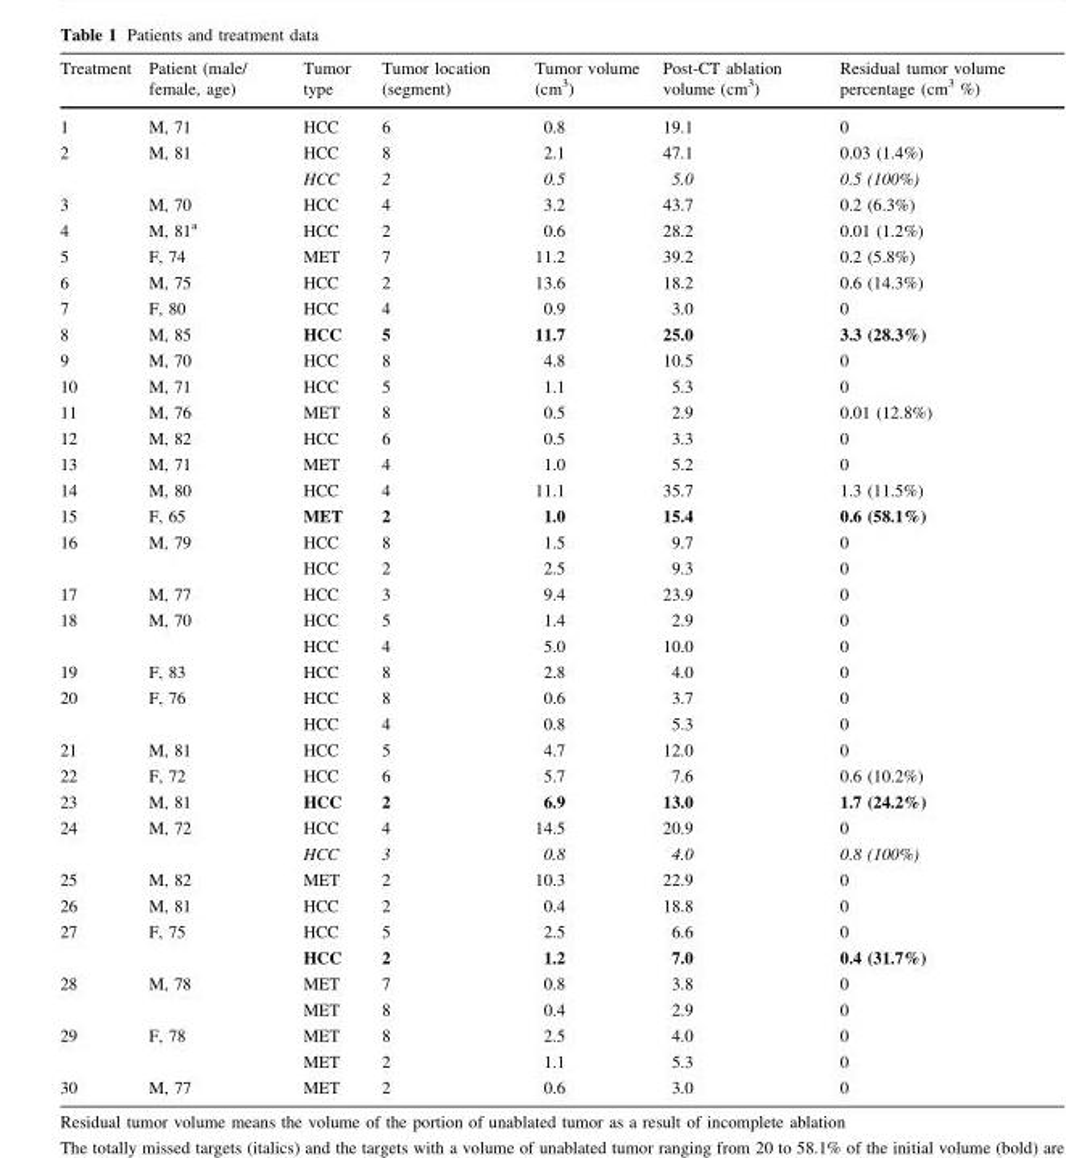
<table><thead><tr><td>Treatment</td><td>Patient (male/ female, age)</td><td>Tumor type</td><td>Tumor location (segment)</td><td>Tumor volume (cm<sup>3</sup>)</td><td>Post-CT ablation volume (cm<sup>3</sup>)</td><td>Residual tumor volume percentage (cm<sup>3</sup> %)</td></tr></thead><tbody><tr><td>1</td><td>M, 71</td><td>HCC</td><td>6</td><td>0.8</td><td>19.1</td><td>0</td></tr><tr><td rowspan="2">2</td><td rowspan="2">M, 81</td><td>HCC</td><td>8</td><td>2.1</td><td>47.1</td><td>0.03 (1.4%)</td></tr><tr><td>HCC</td><td>2</td><td>0.5</td><td>5.0</td><td>0.5 (100%)</td></tr><tr><td>3</td><td>M, 70</td><td>HCC</td><td>4</td><td>3.2</td><td>43.7</td><td>0.2 (6.3%)</td></tr><tr><td>4</td><td>M, 81<sup>a</sup></td><td>HCC</td><td>2</td><td>0.6</td><td>28.2</td><td>0.01 (1.2%)</td></tr><tr><td>5</td><td>F, 74</td><td>MET</td><td>7</td><td>11.2</td><td>39.2</td><td>0.2 (5.8%)</td></tr><tr><td>6</td><td>M, 75</td><td>HCC</td><td>2</td><td>13.6</td><td>18.2</td><td>0.6 (14.3%)</td></tr><tr><td>7</td><td>F, 80</td><td>HCC</td><td>4</td><td>0.9</td><td>3.0</td><td>0</td></tr><tr><td>8</td><td>M, 85</td><td>HCC</td><td>5</td><td>11.7</td><td>25.0</td><td>3.3 (28.3%)</td></tr><tr><td>9</td><td>M, 70</td><td>HCC</td><td>8</td><td>4.8</td><td>10.5</td><td>0</td></tr><tr><td>10</td><td>M, 71</td><td>HCC</td><td>5</td><td>1.1</td><td>5.3</td><td>0</td></tr><tr><td>11</td><td>M, 76</td><td>MET</td><td>8</td><td>0.5</td><td>2.9</td><td>0.01 (12.8%)</td></tr><tr><td>12</td><td>M, 82</td><td>HCC</td><td>6</td><td>0.5</td><td>3.3</td><td>0</td></tr><tr><td>13</td><td>M, 71</td><td>MET</td><td>4</td><td>1.0</td><td>5.2</td><td>0</td></tr><tr><td>14</td><td>M, 80</td><td>HCC</td><td>4</td><td>11.1</td><td>35.7</td><td>1.3 (11.5%)</td></tr><tr><td>15</td><td>F, 65</td><td>MET</td><td>2</td><td>1.0</td><td>15.4</td><td>0.6 (58.1%)</td></tr><tr><td rowspan="2">16</td><td rowspan="2">M, 79</td><td>HCC</td><td>8</td><td>1.5</td><td>9.7</td><td>0</td></tr><tr><td>HCC</td><td>2</td><td>2.5</td><td>9.3</td><td>0</td></tr><tr><td>17</td><td>M, 77</td><td>HCC</td><td>3</td><td>9.4</td><td>23.9</td><td>0</td></tr><tr><td rowspan="2">18</td><td rowspan="2">M, 70</td><td>HCC</td><td>5</td><td>1.4</td><td>2.9</td><td>0</td></tr><tr><td>HCC</td><td>4</td><td>5.0</td><td>10.0</td><td>0</td></tr><tr><td>19</td><td>F, 83</td><td>HCC</td><td>8</td><td>2.8</td><td>4.0</td><td>0</td></tr><tr><td rowspan="2">20</td><td rowspan="2">F, 76</td><td>HCC</td><td>8</td><td>0.6</td><td>3.7</td><td>0</td></tr><tr><td>HCC</td><td>4</td><td>0.8</td><td>5.3</td><td>0</td></tr><tr><td>21</td><td>M, 81</td><td>HCC</td><td>5</td><td>4.7</td><td>12.0</td><td>0</td></tr><tr><td>22</td><td>F, 72</td><td>HCC</td><td>6</td><td>5.7</td><td>7.6</td><td>0.6 (10.2%)</td></tr><tr><td>23</td><td>M, 81</td><td>HCC</td><td>2</td><td>6.9</td><td>13.0</td><td>1.7 (24.2%)</td></tr><tr><td rowspan="2">24</td><td rowspan="2">M, 72</td><td>HCC</td><td>4</td><td>14.5</td><td>20.9</td><td>0</td></tr><tr><td>HCC</td><td>3</td><td>0.8</td><td>4.0</td><td>0.8 (100%)</td></tr><tr><td>25</td><td>M, 82</td><td>MET</td><td>2</td><td>10.3</td><td>22.9</td><td>0</td></tr><tr><td>26</td><td>M, 81</td><td>HCC</td><td>2</td><td>0.4</td><td>18.8</td><td>0</td></tr><tr><td rowspan="2">27</td><td rowspan="2">F, 75</td><td>HCC</td><td>5</td><td>2.5</td><td>6.6</td><td>0</td></tr><tr><td>HCC</td><td>2</td><td>1.2</td><td>7.0</td><td>0.4 (31.7%)</td></tr><tr><td rowspan="2">28</td><td rowspan="2">M, 78</td><td>MET</td><td>7</td><td>0.8</td><td>3.8</td><td>0</td></tr><tr><td>MET</td><td>8</td><td>0.4</td><td>2.9</td><td>0</td></tr><tr><td rowspan="2">29</td><td rowspan="2">F, 78</td><td>MET</td><td>8</td><td>2.5</td><td>4.0</td><td>0</td></tr><tr><td>MET</td><td>2</td><td>1.1</td><td>5.3</td><td>0</td></tr><tr><td>30</td><td>M, 77</td><td>MET</td><td>2</td><td>0.6</td><td>3.0</td><td>0</td></tr></tbody></table>